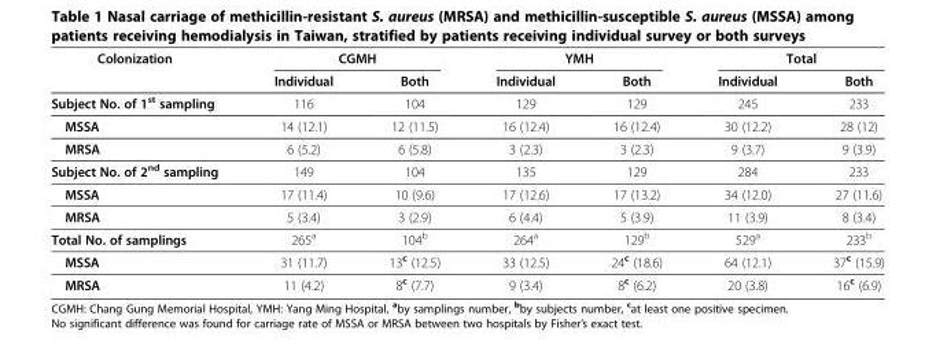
<table><thead><tr><td rowspan="2">Colonization</td><td colspan="2">CGMH</td><td colspan="2">YMH</td><td colspan="2">Total</td></tr><tr><td>Individual</td><td>Both</td><td>Individual</td><td>Both</td><td>Individual</td><td>Both</td></tr></thead><tbody><tr><td>Subject No. of 1<sup>st</sup> sampling</td><td>116</td><td>104</td><td>129</td><td>129</td><td>245</td><td>233</td></tr><tr><td>MSSA</td><td>14 (12.1)</td><td>12 (11.5)</td><td>16 (12.4)</td><td>16 (12.4)</td><td>30 (12.2)</td><td>28 (12)</td></tr><tr><td>MRSA</td><td>6 (5.2)</td><td>6 (5.8)</td><td>3 (2.3)</td><td>3 (2.3)</td><td>9 (3.7)</td><td>9 (3.9)</td></tr><tr><td>Subject No. of 2<sup>nd</sup> sampling</td><td>149</td><td>104</td><td>135</td><td>129</td><td>284</td><td>233</td></tr><tr><td>MSSA</td><td>17 (11.4)</td><td>10 (9.6)</td><td>17 (12.6)</td><td>17 (13.2)</td><td>34 (12.0)</td><td>27 (11.6)</td></tr><tr><td>MRSA</td><td>5 (3.4)</td><td>3 (2.9)</td><td>6 (4.4)</td><td>5 (3.9)</td><td>11 (3.9)</td><td>8 (3.4)</td></tr><tr><td>Total No. of samplings</td><td>265<sup>a</sup></td><td>104<sup>b</sup></td><td>264<sup>a</sup></td><td>129<sup>b</sup></td><td>529<sup>a</sup></td><td>233<sup>b</sup></td></tr><tr><td>MSSA</td><td>31 (11.7)</td><td>13<sup>c</sup> (12.5)</td><td>33 (12.5)</td><td>24<sup>c</sup> (18.6)</td><td>64 (12.1)</td><td>37<sup>c</sup> (15.9)</td></tr><tr><td>MRSA</td><td>11 (4.2)</td><td>8<sup>c</sup> (7.7)</td><td>9 (3.4)</td><td>8<sup>c</sup> (6.2)</td><td>20 (3.8)</td><td>16<sup>c</sup> (6.9)</td></tr></tbody></table>